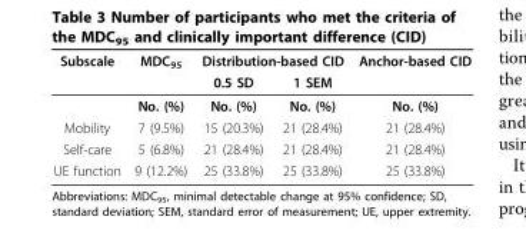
<table><thead><tr><td rowspan="2">Subscale</td><td rowspan="2">MDC<sub>95</sub></td><td colspan="2">Distribution-based CID</td><td rowspan="2">Anchor-based CID</td></tr><tr><td>0.5 SD</td><td>1 SEM</td></tr></thead><tbody><tr><td></td><td>No. (%)</td><td>No. (%)</td><td>No. (%)</td><td>No. (%)</td></tr><tr><td>Mobility</td><td>7 (9.5%)</td><td>15 (20.3%)</td><td>21 (28.4%)</td><td>21 (28.4%)</td></tr><tr><td>Self-care</td><td>5 (6.8%)</td><td>21 (28.4%)</td><td>21 (28.4%)</td><td>21 (28.4%)</td></tr><tr><td>UE function</td><td>9 (12.2%)</td><td>25 (33.8%)</td><td>25 (33.8%)</td><td>25 (33.8%)</td></tr></tbody></table>